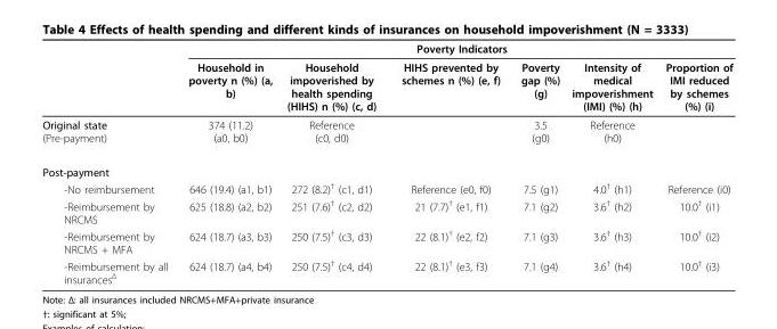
<table><thead><tr><td rowspan="2"></td><td colspan="6">Poverty Indicators</td></tr><tr><td>Household in poverty n (%) (a, b)</td><td>Household impoverished by health spending (HIHS) n (%) (c, d)</td><td>HIHS prevented by schemes n (%) (e, f)</td><td>Poverty gap (%) (g)</td><td>Intensity of medical impoverishment (IMI) (%) (h)</td><td>Proportion of IMI reduced by schemes (%) (i)</td></tr></thead><tbody><tr><td>Original state (Pre-payment)</td><td>374 (11.2) (a0, b0)</td><td>Reference (c0, d0)</td><td></td><td>3.5 (g0)</td><td>Reference (h0)</td><td></td></tr><tr><td colspan="7">Post-payment</td></tr><tr><td>-No reimbursement</td><td>646 (19.4) (a1, b1)</td><td>272 (8.2)<sup>†</sup> (c1, d1)</td><td>Reference (e0, f0)</td><td>7.5 (g1)</td><td>4.0<sup>†</sup> (h1)</td><td>Reference (i0)</td></tr><tr><td>-Reimbursement by NRCMS</td><td>625 (18.8) (a2, b2)</td><td>251 (7.6)<sup>†</sup> (c2, d2)</td><td>21 (7.7)<sup>†</sup> (e1, f1)</td><td>7.1 (g2)</td><td>3.6<sup>†</sup> (h2)</td><td>10.0<sup>†</sup> (i1)</td></tr><tr><td>-Reimbursement by NRCMS + MFA</td><td>624 (18.7) (a3, b3)</td><td>250 (7.5)<sup>†</sup> (c3, d3)</td><td>22 (8.1)<sup>†</sup> (e2, f2)</td><td>7.1 (g3)</td><td>3.6<sup>†</sup> (h3)</td><td>10.0<sup>†</sup> (i2)</td></tr><tr><td>-Reimbursement by all insurances<sup>Δ</sup></td><td>624 (18.7) (a4, b4)</td><td>250 (7.5)<sup>†</sup> (c4, d4)</td><td>22 (8.1)<sup>†</sup> (e3, f3)</td><td>7.1 (g4)</td><td>3.6<sup>†</sup> (h4)</td><td>10.0<sup>†</sup> (i3)</td></tr></tbody></table>